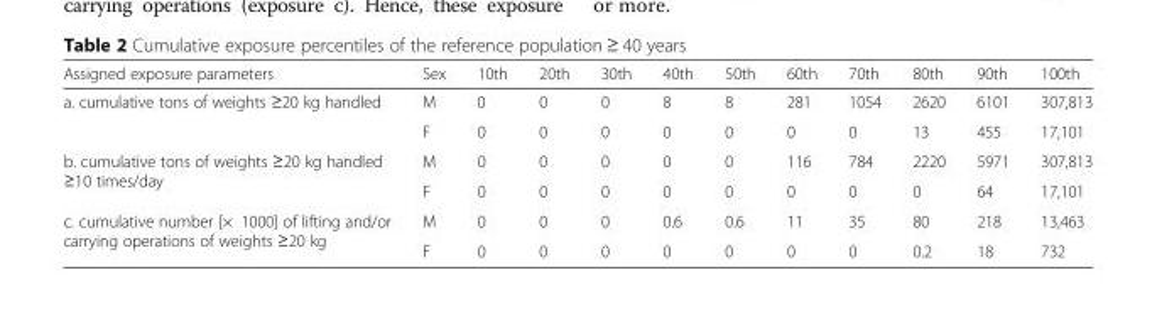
<table><thead><tr><td>Assigned exposure parameters</td><td>Sex</td><td>10th</td><td>20th</td><td>30th</td><td>40th</td><td>50th</td><td>60th</td><td>70th</td><td>80th</td><td>90th</td><td>100th</td></tr></thead><tbody><tr><td rowspan="2">a. cumulative tons of weights ≥20 kg handled</td><td>M</td><td>0</td><td>0</td><td>0</td><td>8</td><td>8</td><td>281</td><td>1054</td><td>2620</td><td>6101</td><td>307,813</td></tr><tr><td>F</td><td>0</td><td>0</td><td>0</td><td>0</td><td>0</td><td>0</td><td>0</td><td>13</td><td>455</td><td>17,101</td></tr><tr><td rowspan="2">b. cumulative tons of weights ≥20 kg handled ≥10 times/day</td><td>M</td><td>0</td><td>0</td><td>0</td><td>0</td><td>0</td><td>116</td><td>784</td><td>2220</td><td>5971</td><td>307,813</td></tr><tr><td>F</td><td>0</td><td>0</td><td>0</td><td>0</td><td>0</td><td>0</td><td>0</td><td>0</td><td>64</td><td>17,101</td></tr><tr><td rowspan="2">c. cumulative number [× 1000] of lifting and/or carrying operations of weights ≥20 kg</td><td>M</td><td>0</td><td>0</td><td>0</td><td>0.6</td><td>0.6</td><td>11</td><td>35</td><td>80</td><td>218</td><td>13,463</td></tr><tr><td>F</td><td>0</td><td>0</td><td>0</td><td>0</td><td>0</td><td>0</td><td>0</td><td>0.2</td><td>18</td><td>732</td></tr></tbody></table>